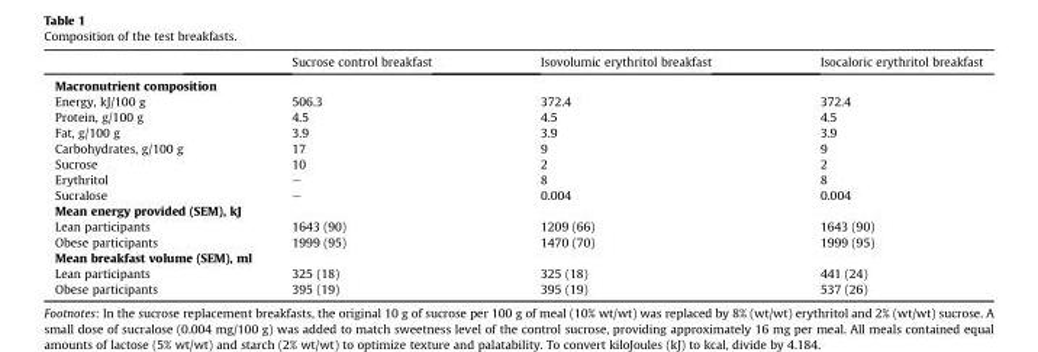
<table><thead><tr><td></td><td>Sucrose control breakfast</td><td>Isovolumic erythritol breakfast</td><td>Isocaloric erythritol breakfast</td></tr></thead><tbody><tr><td colspan="4">Macronutrient composition</td></tr><tr><td>Energy, kJ/100 g</td><td>506.3</td><td>372.4</td><td>372.4</td></tr><tr><td>Protein, g/100 g</td><td>4.5</td><td>4.5</td><td>4.5</td></tr><tr><td>Fat, g/100 g</td><td>3.9</td><td>3.9</td><td>3.9</td></tr><tr><td>Carbohydrates, g/100 g</td><td>17</td><td>9</td><td>9</td></tr><tr><td>Sucrose</td><td>10</td><td>2</td><td>2</td></tr><tr><td>Erythritol</td><td>–</td><td>8</td><td>8</td></tr><tr><td>Sucralose</td><td>–</td><td>0.004</td><td>0.004</td></tr><tr><td colspan="4">Mean energy provided (SEM), kJ</td></tr><tr><td>Lean participants</td><td>1643 (90)</td><td>1209 (66)</td><td>1643 (90)</td></tr><tr><td>Obese participants</td><td>1999 (95)</td><td>1470 (70)</td><td>1999 (95)</td></tr><tr><td colspan="4">Mean breakfast volume (SEM), ml</td></tr><tr><td>Lean participants</td><td>325 (18)</td><td>325 (18)</td><td>441 (24)</td></tr><tr><td>Obese participants</td><td>395 (19)</td><td>395 (19)</td><td>537 (26)</td></tr></tbody></table>